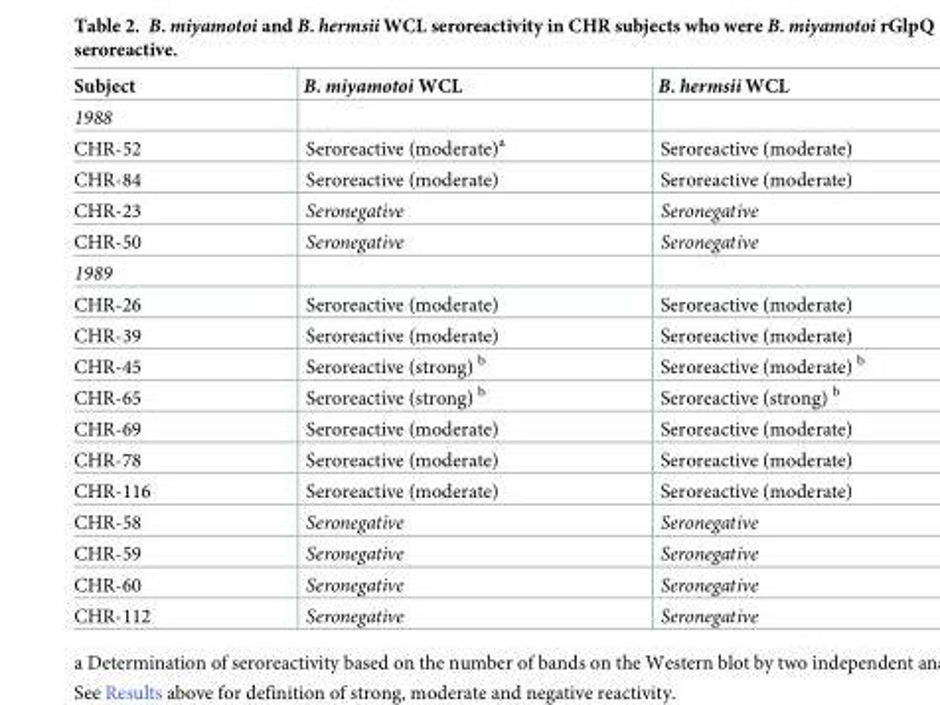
<table><thead><tr><td>Subject</td><td>B. miyamotoi WCL</td><td>B. hermsii WCL</td></tr></thead><tbody><tr><td colspan="3">1988</td></tr><tr><td>CHR-52</td><td>Seroreactive (moderate)<sup>a</sup></td><td>Seroreactive (moderate)</td></tr><tr><td>CHR-84</td><td>Seroreactive (moderate)</td><td>Seroreactive (moderate)</td></tr><tr><td>CHR-23</td><td>Seronegative</td><td>Seronegative</td></tr><tr><td>CHR-50</td><td>Seronegative</td><td>Seronegative</td></tr><tr><td colspan="3">1989</td></tr><tr><td>CHR-26</td><td>Seroreactive (moderate)</td><td>Seroreactive (moderate)</td></tr><tr><td>CHR-39</td><td>Seroreactive (moderate)</td><td>Seroreactive (moderate)</td></tr><tr><td>CHR-45</td><td>Seroreactive (strong) <sup>b</sup></td><td>Seroreactive (moderate) <sup>b</sup></td></tr><tr><td>CHR-65</td><td>Seroreactive (strong) <sup>b</sup></td><td>Seroreactive (strong) <sup>b</sup></td></tr><tr><td>CHR-69</td><td>Seroreactive (moderate)</td><td>Seroreactive (moderate)</td></tr><tr><td>CHR-78</td><td>Seroreactive (moderate)</td><td>Seroreactive (moderate)</td></tr><tr><td>CHR-116</td><td>Seroreactive (moderate)</td><td>Seroreactive (moderate)</td></tr><tr><td>CHR-58</td><td>Seronegative</td><td>Seronegative</td></tr><tr><td>CHR-59</td><td>Seronegative</td><td>Seronegative</td></tr><tr><td>CHR-60</td><td>Seronegative</td><td>Seronegative</td></tr><tr><td>CHR-112</td><td>Seronegative</td><td>Seronegative</td></tr></tbody></table>